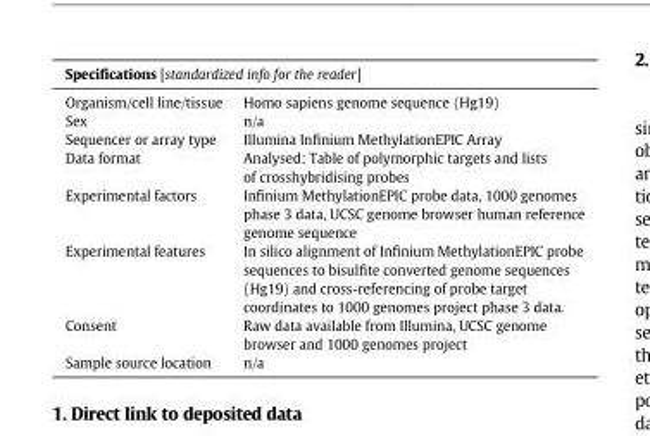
<table><thead><tr><td colspan="2">Specifications [standardized info for the reader]</td></tr><tr><td>Organism/cell line/tissue</td><td>Homo sapiens genome sequence (Hg19)</td></tr></thead><tbody><tr><td>Sex</td><td>n/a</td></tr><tr><td>Sequencer or array type</td><td>Illumina Infinium MethylationEPIC Array</td></tr><tr><td>Data format</td><td>Analysed: Table of polymorphic targets and lists of crosshybridising probes</td></tr><tr><td>Experimental factors</td><td>Infinium MethylationEPIC probe data, 1000 genomes phase 3 data, UCSC genome browser human reference genome sequence</td></tr><tr><td>Experimental features</td><td>In silico alignment of Infinium MethylationEPIC probe sequences to bisulfite converted genome sequences (Hg19) and cross-referencing of probe target coordinates to 1000 genomes project phase 3 data.</td></tr><tr><td>Consent</td><td>Raw data available from Illumina, UCSC genome browser and 1000 genomes project</td></tr><tr><td>Sample source location</td><td>n/a</td></tr></tbody></table>